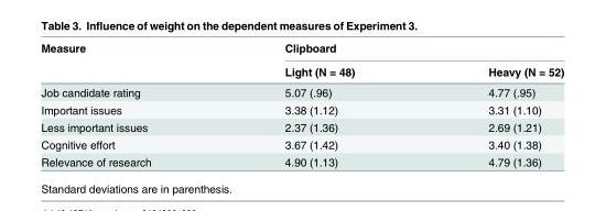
<table><thead><tr><td rowspan="2">Measure</td><td colspan="2">Clipboard</td></tr><tr><td>Light (N = 48)</td><td>Heavy (N = 52)</td></tr></thead><tbody><tr><td>Job candidate rating</td><td>5.07 (.96)</td><td>4.77 (.95)</td></tr><tr><td>Important issues</td><td>3.38 (1.12)</td><td>3.31 (1.10)</td></tr><tr><td>Less important issues</td><td>2.37 (1.36)</td><td>2.69 (1.21)</td></tr><tr><td>Cognitive effort</td><td>3.67 (1.42)</td><td>3.40 (1.38)</td></tr><tr><td>Relevance of research</td><td>4.90 (1.13)</td><td>4.79 (1.36)</td></tr></tbody></table>